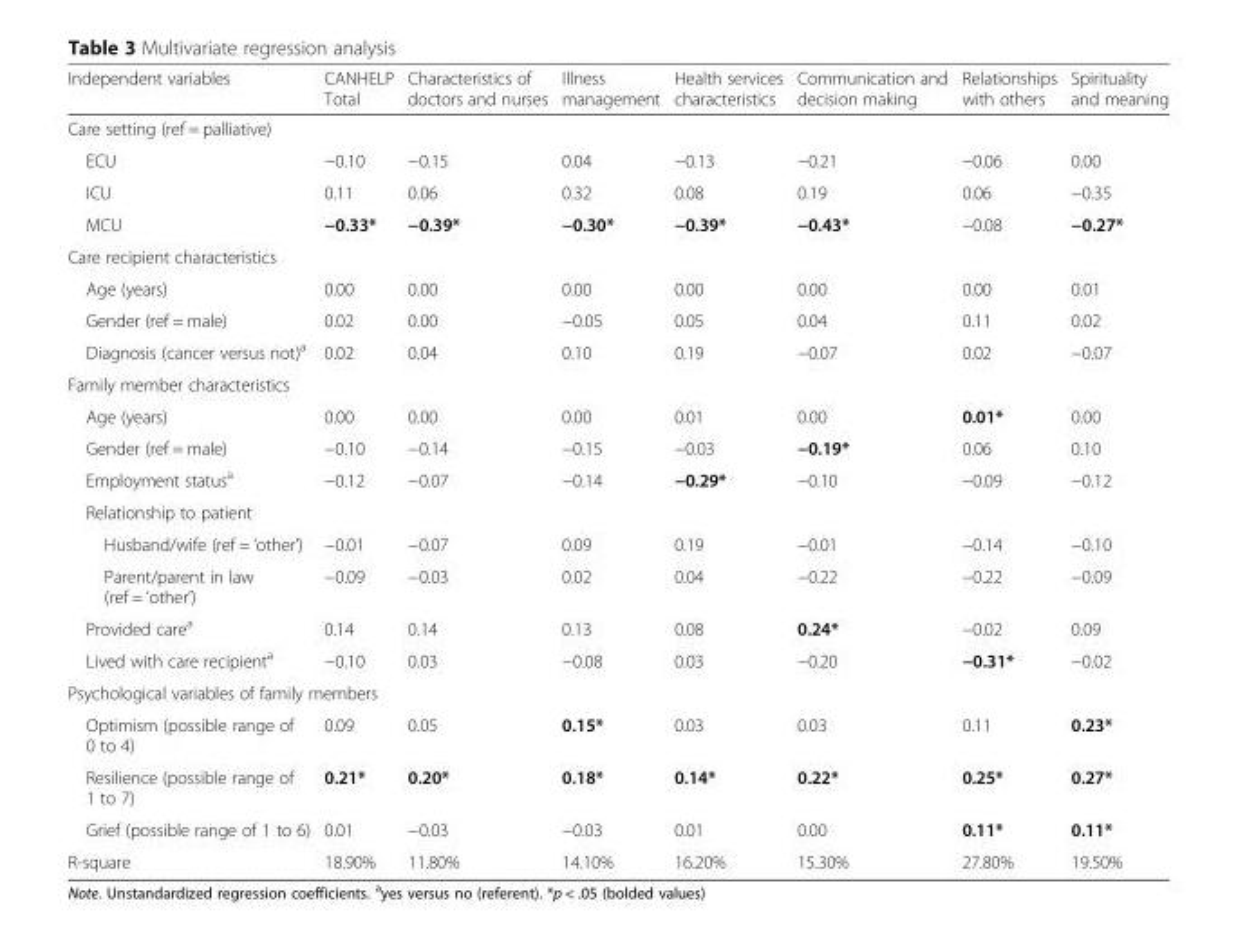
<table><thead><tr><td>Independent variables</td><td>CANHELP Total</td><td>Characteristics of doctors and nurses</td><td>Illness management</td><td>Health services characteristics</td><td>Communication and decision making</td><td>Relationships with others</td><td>Spirituality and meaning</td></tr></thead><tbody><tr><td colspan="8">Care setting (ref = palliative)</td></tr><tr><td>ECU</td><td>−0.10</td><td>−0.15</td><td>0.04</td><td>−0.13</td><td>−0.21</td><td>−0.06</td><td>0.00</td></tr><tr><td>ICU</td><td>0.11</td><td>0.06</td><td>0.32</td><td>0.08</td><td>0.19</td><td>0.06</td><td>−0.35</td></tr><tr><td>MCU</td><td>−0.33*</td><td>−0.39*</td><td>−0.30*</td><td>−0.39*</td><td>−0.43*</td><td>−0.08</td><td>−0.27*</td></tr><tr><td colspan="8">Care recipient characteristics</td></tr><tr><td>Age (years)</td><td>0.00</td><td>0.00</td><td>0.00</td><td>0.00</td><td>0.00</td><td>0.00</td><td>0.01</td></tr><tr><td>Gender (ref = male)</td><td>0.02</td><td>0.00</td><td>−0.05</td><td>0.05</td><td>0.04</td><td>0.11</td><td>0.02</td></tr><tr><td>Diagnosis (cancer versus not)<sup>a</sup></td><td>0.02</td><td>0.04</td><td>0.10</td><td>0.19</td><td>−0.07</td><td>0.02</td><td>−0.07</td></tr><tr><td colspan="8">Family member characteristics</td></tr><tr><td>Age (years)</td><td>0.00</td><td>0.00</td><td>0.00</td><td>0.01</td><td>0.00</td><td>0.01*</td><td>0.00</td></tr><tr><td>Gender (ref = male)</td><td>−0.10</td><td>−0.14</td><td>−0.15</td><td>−0.03</td><td>−0.19*</td><td>0.06</td><td>0.10</td></tr><tr><td>Employment status<sup>a</sup></td><td>−0.12</td><td>−0.07</td><td>−0.14</td><td>−0.29*</td><td>−0.10</td><td>−0.09</td><td>−0.12</td></tr><tr><td colspan="8">Relationship to patient</td></tr><tr><td>Husband/wife (ref = ‘other’)</td><td>−0.01</td><td>−0.07</td><td>0.09</td><td>0.19</td><td>−0.01</td><td>−0.14</td><td>−0.10</td></tr><tr><td>Parent/parent in law (ref = ‘other’)</td><td>−0.09</td><td>−0.03</td><td>0.02</td><td>0.04</td><td>−0.22</td><td>−0.22</td><td>−0.09</td></tr><tr><td>Provided care<sup>a</sup></td><td>0.14</td><td>0.14</td><td>0.13</td><td>0.08</td><td>0.24*</td><td>−0.02</td><td>0.09</td></tr><tr><td>Lived with care recipient<sup>a</sup></td><td>−0.10</td><td>0.03</td><td>−0.08</td><td>0.03</td><td>−0.20</td><td>−0.31*</td><td>−0.02</td></tr><tr><td colspan="8">Psychological variables of family members</td></tr><tr><td>Optimism (possible range of 0 to 4)</td><td>0.09</td><td>0.05</td><td>0.15*</td><td>0.03</td><td>0.03</td><td>0.11</td><td>0.23*</td></tr><tr><td>Resilience (possible range of 1 to 7)</td><td>0.21*</td><td>0.20*</td><td>0.18*</td><td>0.14*</td><td>0.22*</td><td>0.25*</td><td>0.27*</td></tr><tr><td>Grief (possible range of 1 to 6)</td><td>0.01</td><td>−0.03</td><td>−0.03</td><td>0.01</td><td>0.00</td><td>0.11*</td><td>0.11*</td></tr><tr><td>R-square</td><td>18.90%</td><td>11.80%</td><td>14.10%</td><td>16.20%</td><td>15.30%</td><td>27.80%</td><td>19.50%</td></tr></tbody></table>